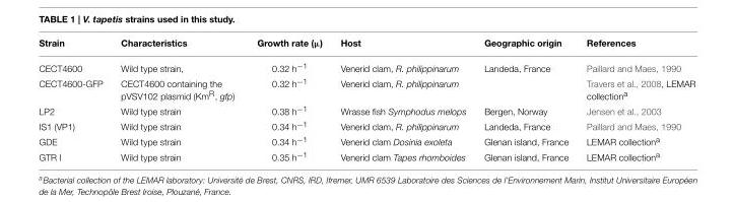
<table><thead><tr><td>Strain</td><td>Characteristics</td><td>Growth rate (µ)</td><td>Host</td><td>Geographic origin</td><td>References</td></tr></thead><tbody><tr><td>CECT4600</td><td>Wild type strain,</td><td>0.32 h<sup>−1</sup></td><td>Venerid clam, R. philippinarum</td><td>Landeda, France</td><td>Paillard and Maes, 1990</td></tr><tr><td>CECT4600-GFP</td><td>CECT4600 containing the pVSV102 plasmid (Km<sup>R</sup>, gfp)</td><td>0.32 h<sup>−1</sup></td><td>Venerid clam, R. philippinarum</td><td></td><td>Travers et al., 2008, LEMAR collection<sup>a</sup></td></tr><tr><td>LP2</td><td>Wild type strain</td><td>0.38 h<sup>−1</sup></td><td>Wrasse fish Symphodus melops</td><td>Bergen, Norway</td><td>Jensen et al., 2003</td></tr><tr><td>IS1 (VP1)</td><td>Wild type strain</td><td>0.34 h<sup>−1</sup></td><td>Venerid clam, R. philippinarum</td><td>Landeda, France</td><td>Paillard and Maes, 1990</td></tr><tr><td>GDE</td><td>Wild type strain</td><td>0.34 h<sup>−1</sup></td><td>Venerid clam Dosinia exoleta</td><td>Glenan island, France</td><td>LEMAR collection<sup>a</sup></td></tr><tr><td>GTR I</td><td>Wild type strain</td><td>0.35 h<sup>−1</sup></td><td>Venerid clam Tapes rhomboides</td><td>Glenan island, France</td><td>LEMAR collection<sup>a</sup></td></tr></tbody></table>